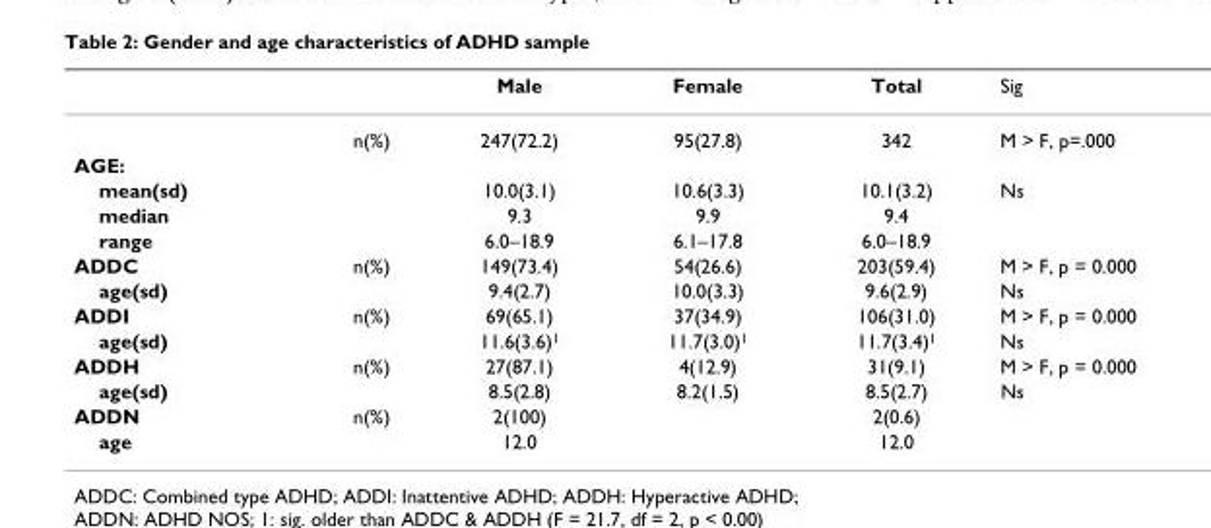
<table><thead><tr><td></td><td></td><td>Male</td><td>Female</td><td>Total</td><td>Sig</td></tr></thead><tbody><tr><td></td><td>n(%)</td><td>247(72.2)</td><td>95(27.8)</td><td>342</td><td>M &gt; F, p=.000</td></tr><tr><td colspan="6">AGE:</td></tr><tr><td>mean(sd)</td><td></td><td>10.0(3.1)</td><td>10.6(3.3)</td><td>10.1(3.2)</td><td>Ns</td></tr><tr><td>median</td><td></td><td>9.3</td><td>9.9</td><td>9.4</td><td></td></tr><tr><td>range</td><td></td><td>6.0–18.9</td><td>6.1–17.8</td><td>6.0–18.9</td><td></td></tr><tr><td>ADDC</td><td>n(%)</td><td>149(73.4)</td><td>54(26.6)</td><td>203(59.4)</td><td>M &gt; F, p = 0.000</td></tr><tr><td>age(sd)</td><td></td><td>9.4(2.7)</td><td>10.0(3.3)</td><td>9.6(2.9)</td><td>Ns</td></tr><tr><td>ADDI</td><td>n(%)</td><td>69(65.1)</td><td>37(34.9)</td><td>106(31.0)</td><td>M &gt; F, p = 0.000</td></tr><tr><td>age(sd)</td><td></td><td>11.6(3.6)<sup>1</sup></td><td>11.7(3.0)<sup>1</sup></td><td>11.7(3.4)<sup>1</sup></td><td>Ns</td></tr><tr><td>ADDH</td><td>n(%)</td><td>27(87.1)</td><td>4(12.9)</td><td>31(9.1)</td><td>M &gt; F, p = 0.000</td></tr><tr><td>age(sd)</td><td></td><td>8.5(2.8)</td><td>8.2(1.5)</td><td>8.5(2.7)</td><td>Ns</td></tr><tr><td>ADDN</td><td>n(%)</td><td>2(100)</td><td></td><td>2(0.6)</td><td></td></tr><tr><td>age</td><td></td><td>12.0</td><td></td><td>12.0</td><td></td></tr></tbody></table>